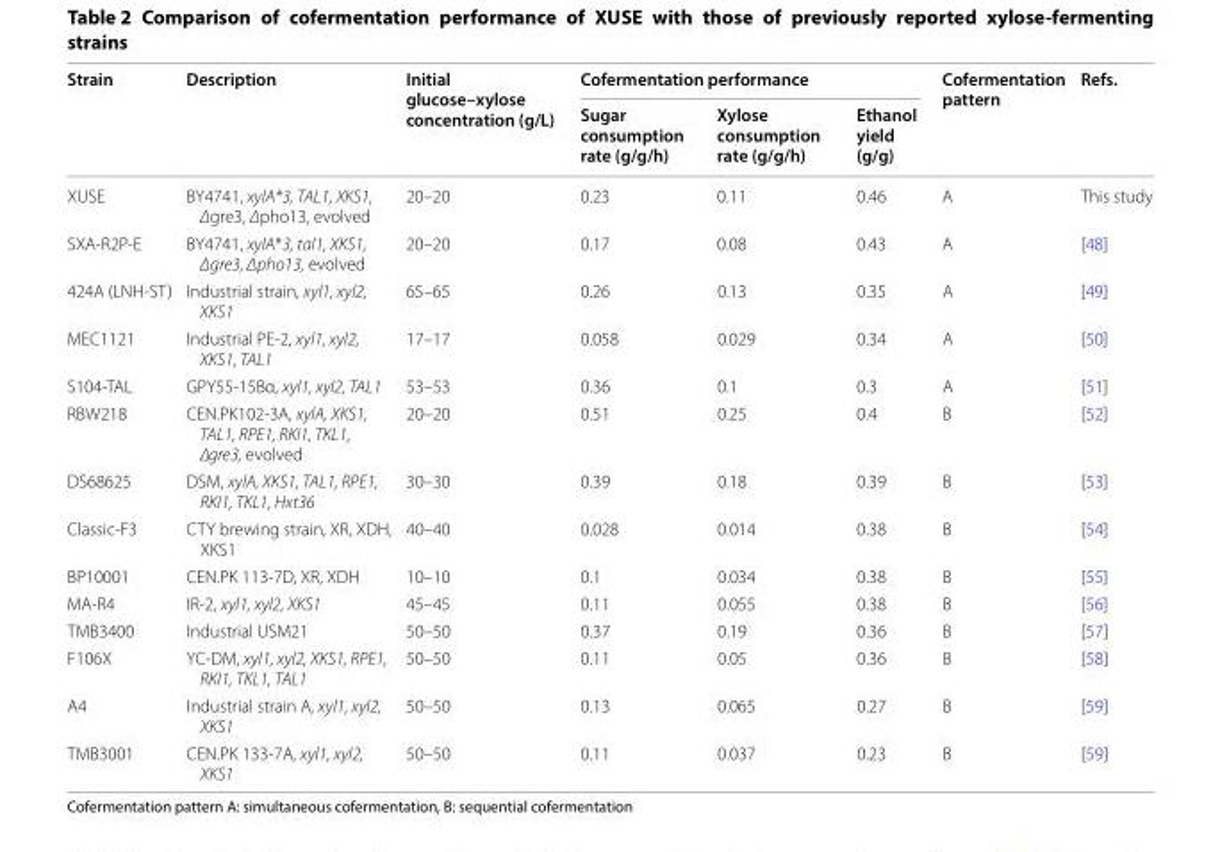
<table><thead><tr><td rowspan="2">Strain</td><td rowspan="2">Description</td><td rowspan="2">Initial glucose–xylose concentration (g/L)</td><td colspan="3">Cofermentation performance</td><td rowspan="2">Cofermentation pattern</td><td rowspan="2">Refs.</td></tr><tr><td>Sugar consumption rate (g/g/h)</td><td>Xylose consumption rate (g/g/h)</td><td>Ethanol yield (g/g)</td></tr></thead><tbody><tr><td>XUSE</td><td>BY4741, xylA*3, TAL1, XKS1, Δgre3, Δpho13, evolved</td><td>20–20</td><td>0.23</td><td>0.11</td><td>0.46</td><td>A</td><td>This study</td></tr><tr><td>SXA‑R2P‑E</td><td>BY4741, xylA*3, tal1, XKS1, Δgre3, Δpho13, evolved</td><td>20–20</td><td>0.17</td><td>0.08</td><td>0.43</td><td>A</td><td>[48]</td></tr><tr><td>424A (LNH‑ST)</td><td>Industrial strain, xyl1, xyl2, XKS1</td><td>65–65</td><td>0.26</td><td>0.13</td><td>0.35</td><td>A</td><td>[49]</td></tr><tr><td>MEC1121</td><td>Industrial PE‑2, xyl1, xyl2, XKS1, TAL1</td><td>17–17</td><td>0.058</td><td>0.029</td><td>0.34</td><td>A</td><td>[50]</td></tr><tr><td>S104‑TAL</td><td>GPY55‑15Bα, xyl1, xyl2, TAL1</td><td>53–53</td><td>0.36</td><td>0.1</td><td>0.3</td><td>A</td><td>[51]</td></tr><tr><td>RBW218</td><td>CEN.PK102‑3A, xylA, XKS1, TAL1, RPE1, RKI1, TKL1, ∆gre3, evolved</td><td>20–20</td><td>0.51</td><td>0.25</td><td>0.4</td><td>B</td><td>[52]</td></tr><tr><td>DS68625</td><td>DSM, xylA, XKS1, TAL1, RPE1, RKI1, TKL1, Hxt36</td><td>30–30</td><td>0.39</td><td>0.18</td><td>0.39</td><td>B</td><td>[53]</td></tr><tr><td>Classic‑F3</td><td>CTY brewing strain, XR, XDH, XKS1</td><td>40–40</td><td>0.028</td><td>0.014</td><td>0.38</td><td>B</td><td>[54]</td></tr><tr><td>BP10001</td><td>CEN.PK 113‑7D, XR, XDH</td><td>10–10</td><td>0.1</td><td>0.034</td><td>0.38</td><td>B</td><td>[55]</td></tr><tr><td>MA‑R4</td><td>IR‑2, xyl1, xyl2, XKS1</td><td>45–45</td><td>0.11</td><td>0.055</td><td>0.38</td><td>B</td><td>[56]</td></tr><tr><td>TMB3400</td><td>Industrial USM21</td><td>50–50</td><td>0.37</td><td>0.19</td><td>0.36</td><td>B</td><td>[57]</td></tr><tr><td>F106X</td><td>YC‑DM, xyl1, xyl2, XKS1, RPE1, RKI1, TKL1, TAL1</td><td>50–50</td><td>0.11</td><td>0.05</td><td>0.36</td><td>B</td><td>[58]</td></tr><tr><td>A4</td><td>Industrial strain A, xyl1, xyl2, XKS1</td><td>50–50</td><td>0.13</td><td>0.065</td><td>0.27</td><td>B</td><td>[59]</td></tr><tr><td>TMB3001</td><td>CEN.PK 133‑7A, xyl1, xyl2, XKS1</td><td>50–50</td><td>0.11</td><td>0.037</td><td>0.23</td><td>B</td><td>[59]</td></tr></tbody></table>